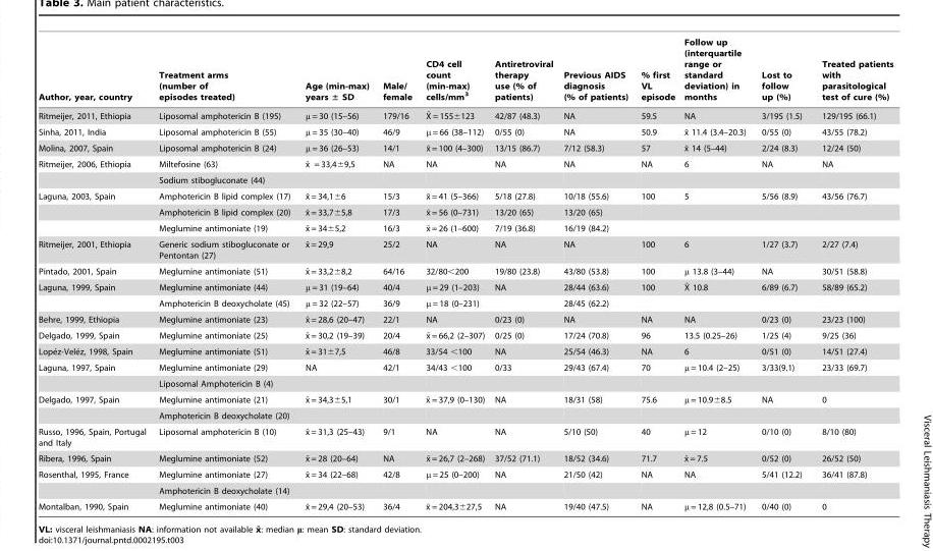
<table><thead><tr><td>Author, year, country</td><td>Treatment arms (number of episodes treated)</td><td>Age (min-max) years ± SD</td><td>Male/ female</td><td>CD4 cell count (min-max) cells/mm<sup>3</sup></td><td>Antiretroviral therapy use (% of patients)</td><td>Previous AIDS diagnosis (% of patients)</td><td>% first VL episode</td><td>Follow up (interquartile range or standard deviation) in months</td><td>Lost to follow up (%)</td><td>Treated patients with parasitological test of cure (%)</td></tr></thead><tbody><tr><td>Ritmeijer, 2011, Ethiopia</td><td>Liposomal amphotericin B (195)</td><td>μ = 30 (15–56)</td><td>179/16</td><td>X˜ = 155±123</td><td>42/87 (48.3)</td><td>NA</td><td>59.5</td><td>NA</td><td>3/195 (1.5)</td><td>129/195 (66.1)</td></tr><tr><td>Sinha, 2011, India</td><td>Liposomal amphotericin B (55)</td><td>μ = 35 (30–40)</td><td>46/9</td><td>μ = 66 (38–112)</td><td>0/55 (0)</td><td>NA</td><td>50.9</td><td>x˜ 11.4 (3.4–20.3)</td><td>0/55 (0)</td><td>43/55 (78.2)</td></tr><tr><td>Molina, 2007, Spain</td><td>Liposomal amphotericin B (24)</td><td>μ = 36 (26–53)</td><td>14/1</td><td>x˜ = 100 (4–300)</td><td>13/15 (86.7)</td><td>7/12 (58.3)</td><td>57</td><td>x˜ 14 (5–44)</td><td>2/24 (8.3)</td><td>12/24 (50)</td></tr><tr><td rowspan="2">Ritmeijer, 2006, Ethiopia</td><td>Miltefosine (63)</td><td>x˜ = 33,4±9,5</td><td>NA</td><td>NA</td><td>NA</td><td>NA</td><td>NA</td><td>6</td><td>NA</td><td>NA</td></tr><tr><td>Sodium stibogluconate (44)</td><td></td><td></td><td></td><td></td><td></td><td></td><td></td><td></td><td></td></tr><tr><td rowspan="3">Laguna, 2003, Spain</td><td>Amphotericin B lipid complex (17)</td><td>x˜ = 34,1±6</td><td>15/3</td><td>x˜ = 41 (5–366)</td><td>5/18 (27.8)</td><td>10/18 (55.6)</td><td>100</td><td>5</td><td>5/56 (8.9)</td><td>43/56 (76.7)</td></tr><tr><td>Amphotericin B lipid complex (20)</td><td>x˜ = 33,7±5,8</td><td>17/3</td><td>x˜ = 56 (0–731)</td><td>13/20 (65)</td><td>13/20 (65)</td><td></td><td></td><td></td><td></td></tr><tr><td>Meglumine antimoniate (19)</td><td>x˜ = 34±5,2</td><td>16/3</td><td>x˜ = 26 (1–600)</td><td>7/19 (36.8)</td><td>16/19 (84.2)</td><td></td><td></td><td></td><td></td></tr><tr><td>Ritmeijer, 2001, Ethiopia</td><td>Generic sodium stibogluconate or Pentontan (27)</td><td>x˜ = 29,9</td><td>25/2</td><td>NA</td><td>NA</td><td>NA</td><td>100</td><td>6</td><td>1/27 (3.7)</td><td>2/27 (7.4)</td></tr><tr><td>Pintado, 2001, Spain</td><td>Meglumine antimoniate (51)</td><td>x˜ = 33,2±8,2</td><td>64/16</td><td>32/80&lt;200</td><td>19/80 (23.8)</td><td>43/80 (53.8)</td><td>100</td><td>μ 13.8 (3–44)</td><td>NA</td><td>30/51 (58.8)</td></tr><tr><td rowspan="2">Laguna, 1999, Spain</td><td>Meglumine antimoniate (44)</td><td>μ = 31 (19–64)</td><td>40/4</td><td>μ = 29 (1–203)</td><td>NA</td><td>28/44 (63.6)</td><td>100</td><td>X˜ 10.8</td><td>6/89 (6.7)</td><td>58/89 (65.2)</td></tr><tr><td>Amphotericin B deoxycholate (45)</td><td>μ = 32 (22–57)</td><td>36/9</td><td>μ = 18 (0–231)</td><td></td><td>28/45 (62.2)</td><td></td><td></td><td></td><td></td></tr><tr><td>Behre, 1999, Ethiopia</td><td>Meglumine antimoniate (23)</td><td>x˜ = 28,6 (20–47)</td><td>22/1</td><td>NA</td><td>0/23 (0)</td><td>NA</td><td>NA</td><td>NA</td><td>0/23 (0)</td><td>23/23 (100)</td></tr><tr><td>Delgado, 1999, Spain</td><td>Meglumine antimoniate (25)</td><td>x˜ = 30,2 (19–39)</td><td>20/4</td><td>x˜ = 66,2 (2–307)</td><td>0/25 (0)</td><td>17/24 (70.8)</td><td>96</td><td>13.5 (0.25–26)</td><td>1/25 (4)</td><td>9/25 (36)</td></tr><tr><td>Lope´z-Vele´z, 1998, Spain</td><td>Meglumine antimoniate (51)</td><td>x˜ = 31±7,5</td><td>46/8</td><td>33/54 &lt;100</td><td>NA</td><td>25/54 (46.3)</td><td>NA</td><td>6</td><td>0/51 (0)</td><td>14/51 (27.4)</td></tr><tr><td rowspan="2">Laguna, 1997, Spain</td><td>Meglumine antimoniate (29)</td><td>NA</td><td>42/1</td><td>34/43 &lt;100</td><td>0/33</td><td>29/43 (67.4)</td><td>70</td><td>μ = 10.4 (2–25)</td><td>3/33(9.1)</td><td>23/33 (69.7)</td></tr><tr><td>Liposomal Amphotericin B (4)</td><td></td><td></td><td></td><td></td><td></td><td></td><td></td><td></td><td></td></tr><tr><td rowspan="2">Delgado, 1997, Spain</td><td>Meglumine antimoniate (21)</td><td>x˜ = 34,3±5,1</td><td>30/1</td><td>x˜ = 37,9 (0–130)</td><td>NA</td><td>18/31 (58)</td><td>75.6</td><td>μ = 10.9±8.5</td><td>NA</td><td>0</td></tr><tr><td>Amphotericin B deoxycholate (20)</td><td></td><td></td><td></td><td></td><td></td><td></td><td></td><td></td><td></td></tr><tr><td>Russo, 1996, Spain, Portugal and Italy</td><td>Liposomal amphotericin B (10)</td><td>x˜ = 31,3 (25–43)</td><td>9/1</td><td>NA</td><td>NA</td><td>5/10 (50)</td><td>40</td><td>μ = 12</td><td>0/10 (0)</td><td>8/10 (80)</td></tr><tr><td>Ribera, 1996, Spain</td><td>Meglumine antimoniate (52)</td><td>x˜ = 28 (20–64)</td><td>NA</td><td>x˜ = 26,7 (2–268)</td><td>37/52 (71.1)</td><td>18/52 (34.6)</td><td>71.7</td><td>x˜ = 7.5</td><td>0/52 (0)</td><td>26/52 (50)</td></tr><tr><td rowspan="2">Rosenthal, 1995, France</td><td>Meglumine antimoniate (27)</td><td>x˜ = 34 (22–68)</td><td>42/8</td><td>μ = 25 (0–200)</td><td>NA</td><td>21/50 (42)</td><td>NA</td><td>NA</td><td>5/41 (12.2)</td><td>36/41 (87.8)</td></tr><tr><td>Amphotericin B deoxycholate (14)</td><td></td><td></td><td></td><td></td><td></td><td></td><td></td><td></td><td></td></tr><tr><td>Montalban, 1990, Spain</td><td>Meglumine antimoniate (40)</td><td>x˜ = 29,4 (20–53)</td><td>36/4</td><td>x˜ = 204,3±27,5</td><td>NA</td><td>19/40 (47.5)</td><td>NA</td><td>μ = 12,8 (0.5–71)</td><td>0/40 (0)</td><td>0</td></tr></tbody></table>